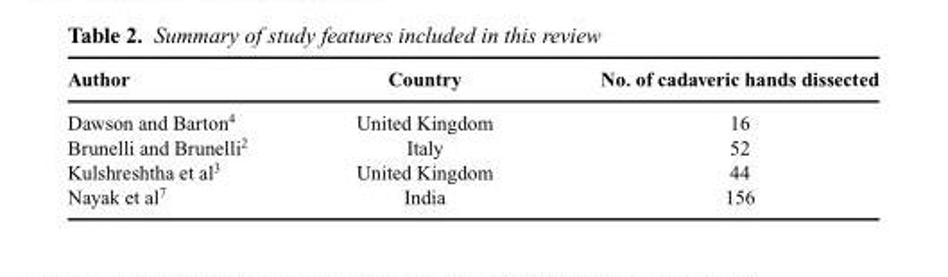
<table><thead><tr><td>Author</td><td>Country</td><td>No. of cadaveric hands dissected</td></tr></thead><tbody><tr><td>Dawson and Barton<sup>4</sup></td><td>United Kingdom</td><td>16</td></tr><tr><td>Brunelli and Brunelli<sup>2</sup></td><td>Italy</td><td>52</td></tr><tr><td>Kulshreshtha et al<sup>3</sup></td><td>United Kingdom</td><td>44</td></tr><tr><td>Nayak et al<sup>7</sup></td><td>India</td><td>156</td></tr></tbody></table>